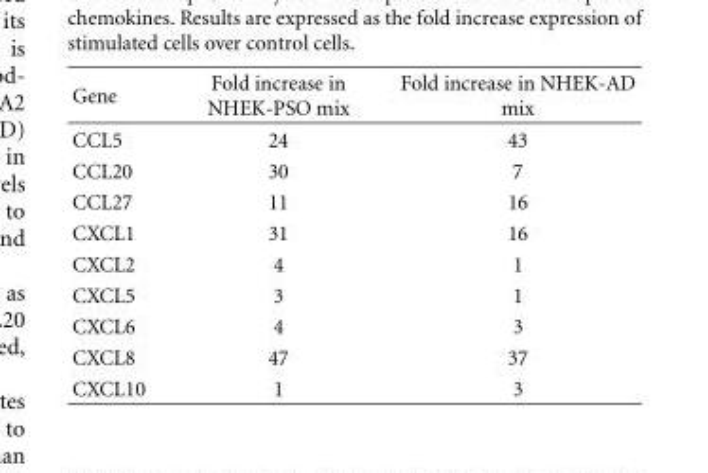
<table><thead><tr><td>Gene</td><td>Fold increase in NHEK-PSO mix</td><td>Fold increase in NHEK-AD mix</td></tr></thead><tbody><tr><td>CCL5</td><td>24</td><td>43</td></tr><tr><td>CCL20</td><td>30</td><td>7</td></tr><tr><td>CCL27</td><td>11</td><td>16</td></tr><tr><td>CXCL1</td><td>31</td><td>16</td></tr><tr><td>CXCL2</td><td>4</td><td>1</td></tr><tr><td>CXCL5</td><td>3</td><td>1</td></tr><tr><td>CXCL6</td><td>4</td><td>3</td></tr><tr><td>CXCL8</td><td>47</td><td>37</td></tr><tr><td>CXCL10</td><td>1</td><td>3</td></tr></tbody></table>